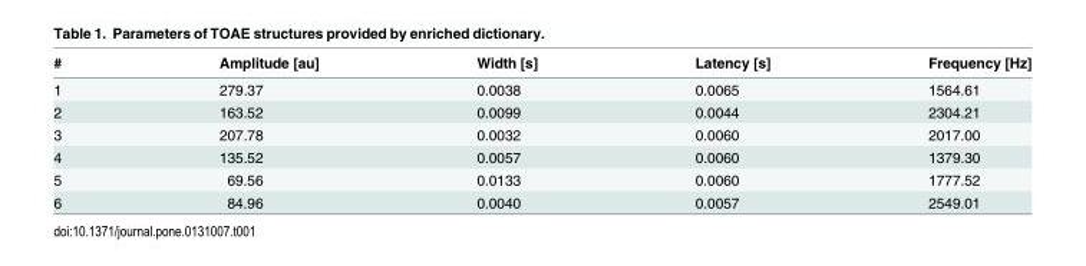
<table><thead><tr><td>#</td><td>Amplitude [au]</td><td>Width [s]</td><td>Latency [s]</td><td>Frequency [Hz]</td></tr></thead><tbody><tr><td>1</td><td>279.37</td><td>0.0038</td><td>0.0065</td><td>1564.61</td></tr><tr><td>2</td><td>163.52</td><td>0.0099</td><td>0.0044</td><td>2304.21</td></tr><tr><td>3</td><td>207.78</td><td>0.0032</td><td>0.0060</td><td>2017.00</td></tr><tr><td>4</td><td>135.52</td><td>0.0057</td><td>0.0060</td><td>1379.30</td></tr><tr><td>5</td><td>69.56</td><td>0.0133</td><td>0.0060</td><td>1777.52</td></tr><tr><td>6</td><td>84.96</td><td>0.0040</td><td>0.0057</td><td>2549.01</td></tr></tbody></table>